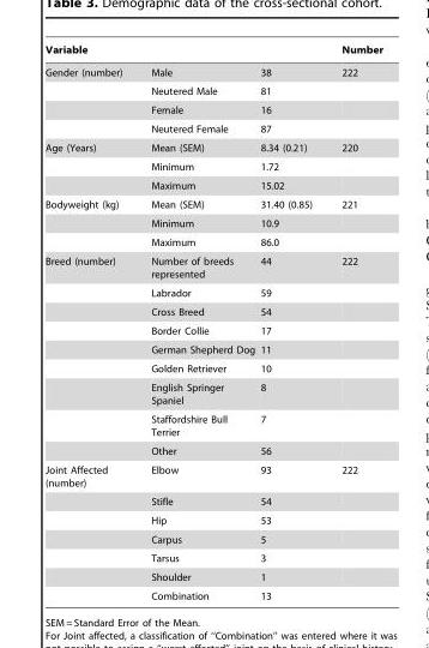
<table><thead><tr><td>Variable</td><td></td><td></td><td>Number</td></tr></thead><tbody><tr><td rowspan="4">Gender (number)</td><td>Male</td><td>38</td><td>222</td></tr><tr><td>Neutered Male</td><td>81</td><td></td></tr><tr><td>Female</td><td>16</td><td></td></tr><tr><td>Neutered Female</td><td>87</td><td></td></tr><tr><td rowspan="3">Age (Years)</td><td>Mean (SEM)</td><td>8.34 (0.21)</td><td>220</td></tr><tr><td>Minimum</td><td>1.72</td><td></td></tr><tr><td>Maximum</td><td>15.02</td><td></td></tr><tr><td rowspan="3">Bodyweight (kg)</td><td>Mean (SEM)</td><td>31.40 (0.85)</td><td>221</td></tr><tr><td>Minimum</td><td>10.9</td><td></td></tr><tr><td>Maximum</td><td>86.0</td><td></td></tr><tr><td rowspan="9">Breed (number)</td><td>Number of breeds represented</td><td>44</td><td>222</td></tr><tr><td>Labrador</td><td>59</td><td></td></tr><tr><td>Cross Breed</td><td>54</td><td></td></tr><tr><td>Border Collie</td><td>17</td><td></td></tr><tr><td>German Shepherd Dog</td><td>11</td><td></td></tr><tr><td>Golden Retriever</td><td>10</td><td></td></tr><tr><td>English Springer Spaniel</td><td>8</td><td></td></tr><tr><td>Staffordshire Bull Terrier</td><td>7</td><td></td></tr><tr><td>Other</td><td>56</td><td></td></tr><tr><td rowspan="7">Joint Affected (number)</td><td>Elbow</td><td>93</td><td>222</td></tr><tr><td>Stifle</td><td>54</td><td></td></tr><tr><td>Hip</td><td>53</td><td></td></tr><tr><td>Carpus</td><td>5</td><td></td></tr><tr><td>Tarsus</td><td>3</td><td></td></tr><tr><td>Shoulder</td><td>1</td><td></td></tr><tr><td>Combination</td><td>13</td><td></td></tr></tbody></table>